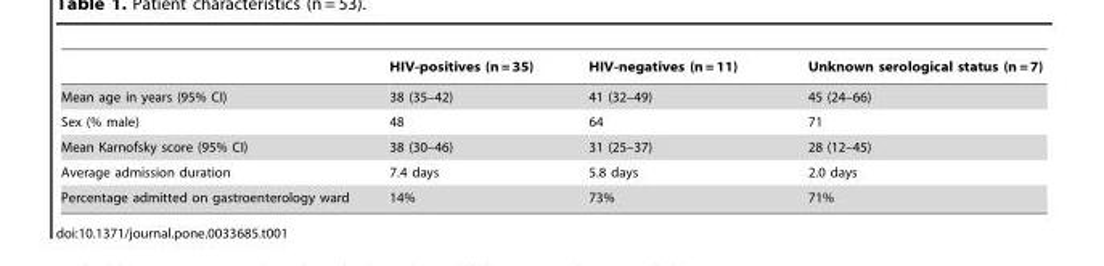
<table><thead><tr><td></td><td>HIV-positives (n = 35)</td><td>HIV-negatives (n = 11)</td><td>Unknown serological status (n = 7)</td></tr></thead><tbody><tr><td>Mean age in years (95% CI)</td><td>38 (35–42)</td><td>41 (32–49)</td><td>45 (24–66)</td></tr><tr><td>Sex (% male)</td><td>48</td><td>64</td><td>71</td></tr><tr><td>Mean Karnofsky score (95% CI)</td><td>38 (30–46)</td><td>31 (25–37)</td><td>28 (12–45)</td></tr><tr><td>Average admission duration</td><td>7.4 days</td><td>5.8 days</td><td>2.0 days</td></tr><tr><td>Percentage admitted on gastroenterology ward</td><td>14%</td><td>73%</td><td>71%</td></tr></tbody></table>